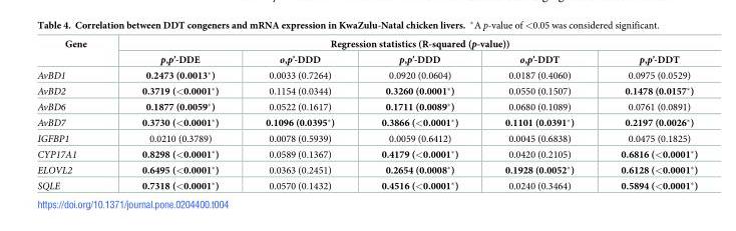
<table><thead><tr><td rowspan="2">Gene</td><td colspan="5">Regression statistics (R-squared (p-value))</td></tr><tr><td>p,p’-DDE</td><td>o,p’-DDD</td><td>p,p’-DDD</td><td>o,p’-DDT</td><td>p,p’-DDT</td></tr></thead><tbody><tr><td>AvBD1</td><td>0.2473 (0.0013*)</td><td>0.0033 (0.7264)</td><td>0.0920 (0.0604)</td><td>0.0187 (0.4060)</td><td>0.0975 (0.0529)</td></tr><tr><td>AvBD2</td><td>0.3719 (&lt;0.0001*)</td><td>0.1154 (0.0344)</td><td>0.3260 (0.0001*)</td><td>0.0550 (0.1507)</td><td>0.1478 (0.0157*)</td></tr><tr><td>AvBD6</td><td>0.1877 (0.0059*)</td><td>0.0522 (0.1617)</td><td>0.1711 (0.0089*)</td><td>0.0680 (0.1089)</td><td>0.0761 (0.0891)</td></tr><tr><td>AvBD7</td><td>0.3730 (&lt;0.0001*)</td><td>0.1096 (0.0395*)</td><td>0.3866 (&lt;0.0001*)</td><td>0.1101 (0.0391*)</td><td>0.2197 (0.0026*)</td></tr><tr><td>IGFBP1</td><td>0.0210 (0.3789)</td><td>0.0078 (0.5939)</td><td>0.0059 (0.6412)</td><td>0.0045 (0.6838)</td><td>0.0475 (0.1825)</td></tr><tr><td>CYP17A1</td><td>0.8298 (&lt;0.0001*)</td><td>0.0589 (0.1367)</td><td>0.4179 (&lt;0.0001*)</td><td>0.0420 (0.2105)</td><td>0.6816 (&lt;0.0001*)</td></tr><tr><td>ELOVL2</td><td>0.6495 (&lt;0.0001*)</td><td>0.0363 (0.2451)</td><td>0.2654 (0.0008*)</td><td>0.1928 (0.0052*)</td><td>0.6128 (&lt;0.0001*)</td></tr><tr><td>SQLE</td><td>0.7318 (&lt;0.0001*)</td><td>0.0570 (0.1432)</td><td>0.4516 (&lt;0.0001*)</td><td>0.0240 (0.3464)</td><td>0.5894 (&lt;0.0001*)</td></tr></tbody></table>